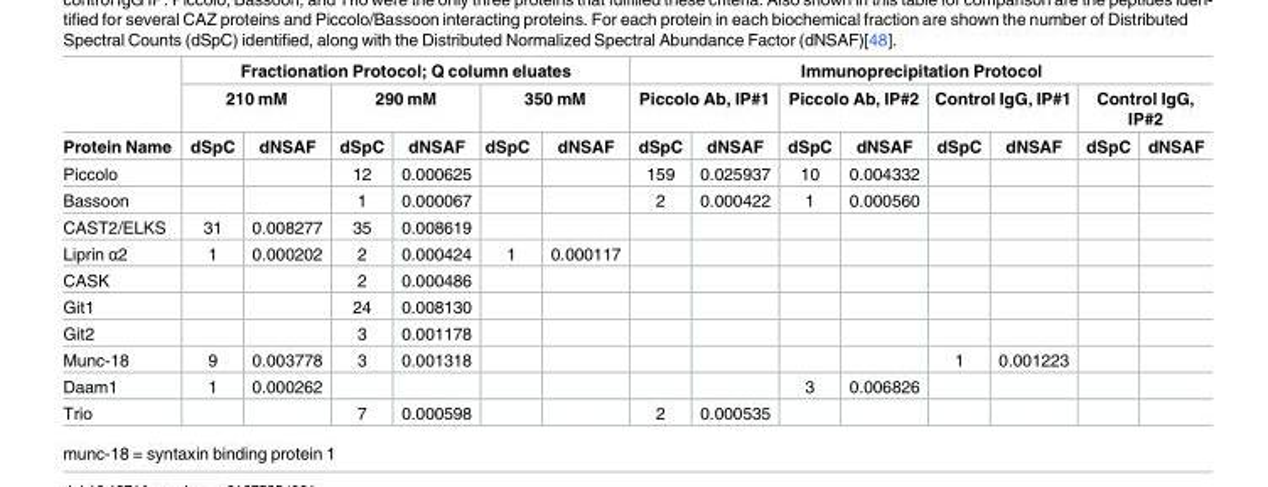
<table><thead><tr><td rowspan="3">Protein Name</td><td colspan="6">Fractionation Protocol; Q column eluates</td><td colspan="8">Immunoprecipitation Protocol</td></tr><tr><td colspan="2">210 mM</td><td colspan="2">290 mM</td><td colspan="2">350 mM</td><td colspan="2">Piccolo Ab, IP#1</td><td colspan="2">Piccolo Ab, IP#2</td><td colspan="2">Control IgG, IP#1</td><td colspan="2">Control IgG, IP#2</td></tr><tr><td>dSpC</td><td>dNSAF</td><td>dSpC</td><td>dNSAF</td><td>dSpC</td><td>dNSAF</td><td>dSpC</td><td>dNSAF</td><td>dSpC</td><td>dNSAF</td><td>dSpC</td><td>dNSAF</td><td>dSpC</td><td>dNSAF</td></tr></thead><tbody><tr><td>Piccolo</td><td></td><td></td><td>12</td><td>0.000625</td><td></td><td></td><td>159</td><td>0.025937</td><td>10</td><td>0.004332</td><td></td><td></td><td></td><td></td></tr><tr><td>Bassoon</td><td></td><td></td><td>1</td><td>0.000067</td><td></td><td></td><td>2</td><td>0.000422</td><td>1</td><td>0.000560</td><td></td><td></td><td></td><td></td></tr><tr><td>CAST2/ELKS</td><td>31</td><td>0.008277</td><td>35</td><td>0.008619</td><td></td><td></td><td></td><td></td><td></td><td></td><td></td><td></td><td></td><td></td></tr><tr><td>Liprin α2</td><td>1</td><td>0.000202</td><td>2</td><td>0.000424</td><td>1</td><td>0.000117</td><td></td><td></td><td></td><td></td><td></td><td></td><td></td><td></td></tr><tr><td>CASK</td><td></td><td></td><td>2</td><td>0.000486</td><td></td><td></td><td></td><td></td><td></td><td></td><td></td><td></td><td></td><td></td></tr><tr><td>Git1</td><td></td><td></td><td>24</td><td>0.008130</td><td></td><td></td><td></td><td></td><td></td><td></td><td></td><td></td><td></td><td></td></tr><tr><td>Git2</td><td></td><td></td><td>3</td><td>0.001178</td><td></td><td></td><td></td><td></td><td></td><td></td><td></td><td></td><td></td><td></td></tr><tr><td>Munc-18</td><td>9</td><td>0.003778</td><td>3</td><td>0.001318</td><td></td><td></td><td></td><td></td><td></td><td></td><td>1</td><td>0.001223</td><td></td><td></td></tr><tr><td>Daam1</td><td>1</td><td>0.000262</td><td></td><td></td><td></td><td></td><td></td><td></td><td>3</td><td>0.006826</td><td></td><td></td><td></td><td></td></tr><tr><td>Trio</td><td></td><td></td><td>7</td><td>0.000598</td><td></td><td></td><td>2</td><td>0.000535</td><td></td><td></td><td></td><td></td><td></td><td></td></tr></tbody></table>